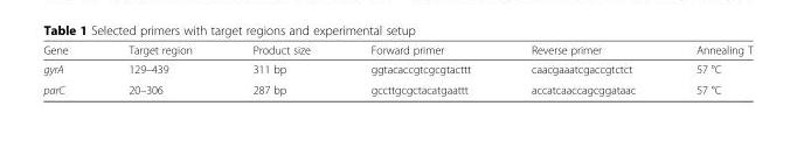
<table><thead><tr><td>Gene</td><td>Target region</td><td>Product size</td><td>Forward primer</td><td>Reverse primer</td><td>Annealing T</td></tr></thead><tbody><tr><td>gyrA</td><td>129–439</td><td>311 bp</td><td>ggtacaccgtcgcgtacttt</td><td>caacgaaatcgaccgtctct</td><td>57 °C</td></tr><tr><td>parC</td><td>20–306</td><td>287 bp</td><td>gccttgcgctacatgaattt</td><td>accatcaaccagcggataac</td><td>57 °C</td></tr></tbody></table>